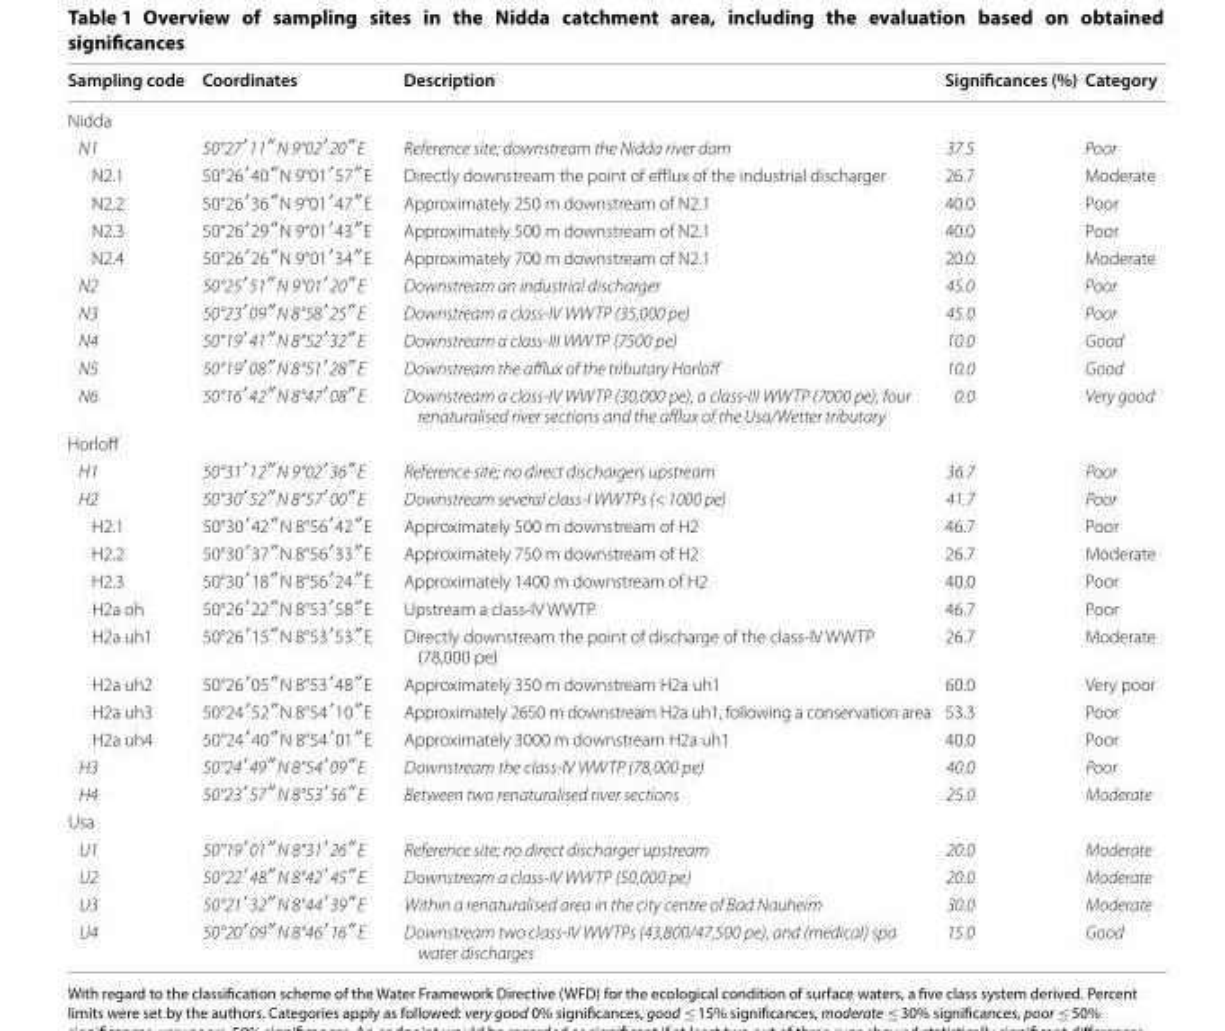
<table><thead><tr><td>Sampling code</td><td>Coordinates</td><td>Description</td><td>Significances (%)</td><td>Category</td></tr></thead><tbody><tr><td colspan="5">Nidda</td></tr><tr><td>N1</td><td>50°27′11″N 9°02′20″E</td><td>Reference site; downstream the Nidda river dam</td><td>37.5</td><td>Poor</td></tr><tr><td>N2.1</td><td>50°26′40″N 9°01′57″E</td><td>Directly downstream the point of efflux of the industrial discharger</td><td>26.7</td><td>Moderate</td></tr><tr><td>N2.2</td><td>50°26′36″N 9°01′47″E</td><td>Approximately 250 m downstream of N2.1</td><td>40.0</td><td>Poor</td></tr><tr><td>N2.3</td><td>50°26′29″N 9°01′43″E</td><td>Approximately 500 m downstream of N2.1</td><td>40.0</td><td>Poor</td></tr><tr><td>N2.4</td><td>50°26′26″N 9°01′34″E</td><td>Approximately 700 m downstream of N2.1</td><td>20.0</td><td>Moderate</td></tr><tr><td>N2</td><td>50°25′51″N 9°01′20″E</td><td>Downstream an industrial discharger</td><td>45.0</td><td>Poor</td></tr><tr><td>N3</td><td>50°23′09″N 8°58′25″E</td><td>Downstream a class-IV WWTP (35,000 pe)</td><td>45.0</td><td>Poor</td></tr><tr><td>N4</td><td>50°19′41″N 8°52′32″E</td><td>Downstream a class-III WWTP (7500 pe)</td><td>10.0</td><td>Good</td></tr><tr><td>N5</td><td>50°19′08″N 8°51′28″E</td><td>Downstream the afflux of the tributary Horloff</td><td>10.0</td><td>Good</td></tr><tr><td>N6</td><td>50°16′42″N 8°47′08″E</td><td>Downstream a class-IV WWTP (30,000 pe), a class-III WWTP (7000 pe), four renaturalised river sections and the afflux of the Usa/Wetter tributary</td><td>0.0</td><td>Very good</td></tr><tr><td colspan="5">Horloff</td></tr><tr><td>H1</td><td>50°31′12″N 9°02′36″E</td><td>Reference site; no direct dischargers upstream</td><td>36.7</td><td>Poor</td></tr><tr><td>H2</td><td>50°30′52″N 8°57′00″E</td><td>Downstream several class-I WWTPs (&lt; 1000 pe)</td><td>41.7</td><td>Poor</td></tr><tr><td>H2.1</td><td>50°30′42″N 8°56′42″E</td><td>Approximately 500 m downstream of H2</td><td>46.7</td><td>Poor</td></tr><tr><td>H2.2</td><td>50°30′37″N 8°56′33″E</td><td>Approximately 750 m downstream of H2</td><td>26.7</td><td>Moderate</td></tr><tr><td>H2.3</td><td>50°30′18″N 8°56′24″E</td><td>Approximately 1400 m downstream of H2</td><td>40.0</td><td>Poor</td></tr><tr><td>H2a oh</td><td>50°26′22″N 8°53′58″E</td><td>Upstream a class‑IV WWTP</td><td>46.7</td><td>Poor</td></tr><tr><td>H2a uh1</td><td>50°26′15″N 8°53′53″E</td><td>Directly downstream the point of discharge of the class‑IV WWTP (78,000 pe)</td><td>26.7</td><td>Moderate</td></tr><tr><td>H2a uh2</td><td>50°26′05″N 8°53′48″E</td><td>Approximately 350 m downstream H2a uh1</td><td>60.0</td><td>Very poor</td></tr><tr><td>H2a uh3</td><td>50°24′52″N 8°54′10″E</td><td>Approximately 2650 m downstream H2a uh1, following a conservation area</td><td>53.3</td><td>Poor</td></tr><tr><td>H2a uh4</td><td>50°24′40″N 8°54′01″E</td><td>Approximately 3000 m downstream H2a uh1</td><td>40.0</td><td>Poor</td></tr><tr><td>H3</td><td>50°24′49″N 8°54′09″E</td><td>Downstream the class-IV WWTP (78,000 pe)</td><td>40.0</td><td>Poor</td></tr><tr><td>H4</td><td>50°23′57″N 8°53′56″E</td><td>Between two renaturalised river sections</td><td>25.0</td><td>Moderate</td></tr><tr><td colspan="5">Usa</td></tr><tr><td>U1</td><td>50°19′01″N 8°31′26″E</td><td>Reference site; no direct discharger upstream</td><td>20.0</td><td>Moderate</td></tr><tr><td>U2</td><td>50°22′48″N 8°42′45″E</td><td>Downstream a class-IV WWTP (50,000 pe)</td><td>20.0</td><td>Moderate</td></tr><tr><td>U3</td><td>50°21′32″N 8°44′39″E</td><td>Within a renaturalised area in the city centre of Bad Nauheim</td><td>30.0</td><td>Moderate</td></tr><tr><td>U4</td><td>50°20′09″N 8°46′16″E</td><td>Downstream two class-IV WWTPs (43,800/47,500 pe), and (medical) spa water discharges</td><td>15.0</td><td>Good</td></tr></tbody></table>